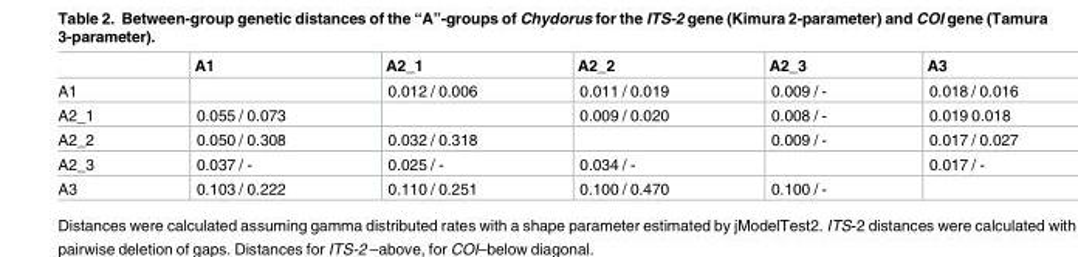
<table><thead><tr><td></td><td>A1</td><td>A2_1</td><td>A2_2</td><td>A2_3</td><td>A3</td></tr></thead><tbody><tr><td>A1</td><td></td><td>0.012 / 0.006</td><td>0.011 / 0.019</td><td>0.009 / -</td><td>0.018 / 0.016</td></tr><tr><td>A2_1</td><td>0.055 / 0.073</td><td></td><td>0.009 / 0.020</td><td>0.008 / -</td><td>0.019 0.018</td></tr><tr><td>A2_2</td><td>0.050 / 0.308</td><td>0.032 / 0.318</td><td></td><td>0.009 / -</td><td>0.017 / 0.027</td></tr><tr><td>A2_3</td><td>0.037 / -</td><td>0.025 / -</td><td>0.034 / -</td><td></td><td>0.017 / -</td></tr><tr><td>A3</td><td>0.103 / 0.222</td><td>0.110 / 0.251</td><td>0.100 / 0.470</td><td>0.100 / -</td><td></td></tr></tbody></table>